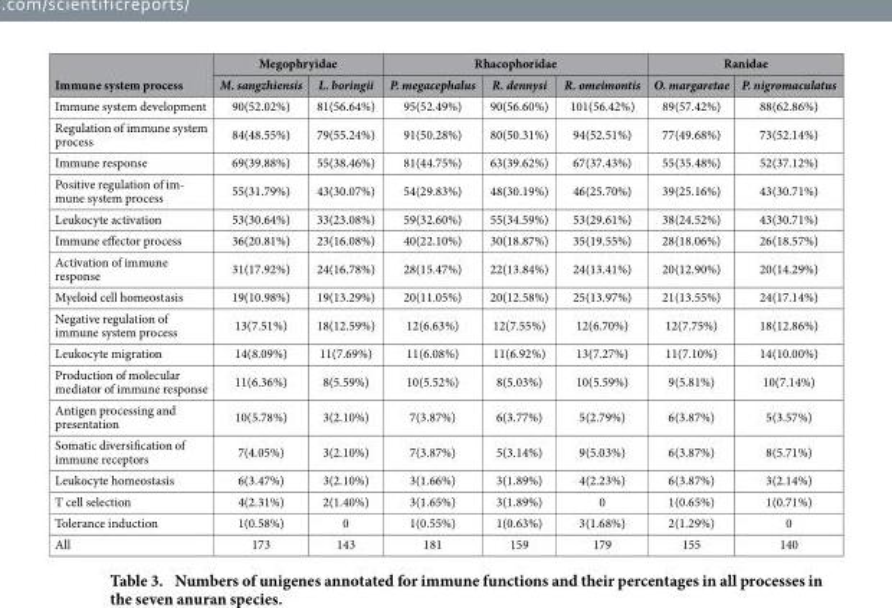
<table><thead><tr><td rowspan="2">Immune system process</td><td colspan="2">Megophryidae</td><td colspan="3">Rhacophoridae</td><td colspan="2">Ranidae</td></tr><tr><td>M. sangzhiensis</td><td>L. boringii</td><td>P. megacephalus</td><td>R. dennysi</td><td>R. omeimontis</td><td>O. margaretae</td><td>P. nigromaculatus</td></tr></thead><tbody><tr><td>Immune system development</td><td>90(52.02%)</td><td>81(56.64%)</td><td>95(52.49%)</td><td>90(56.60%)</td><td>101(56.42%)</td><td>89(57.42%)</td><td>88(62.86%)</td></tr><tr><td>Regulation of immune system process</td><td>84(48.55%)</td><td>79(55.24%)</td><td>91(50.28%)</td><td>80(50.31%)</td><td>94(52.51%)</td><td>77(49.68%)</td><td>73(52.14%)</td></tr><tr><td>Immune response</td><td>69(39.88%)</td><td>55(38.46%)</td><td>81(44.75%)</td><td>63(39.62%)</td><td>67(37.43%)</td><td>55(35.48%)</td><td>52(37.12%)</td></tr><tr><td>Positive regulation of im- mune system process</td><td>55(31.79%)</td><td>43(30.07%)</td><td>54(29.83%)</td><td>48(30.19%)</td><td>46(25.70%)</td><td>39(25.16%)</td><td>43(30.71%)</td></tr><tr><td>Leukocyte activation</td><td>53(30.64%)</td><td>33(23.08%)</td><td>59(32.60%)</td><td>55(34.59%)</td><td>53(29.61%)</td><td>38(24.52%)</td><td>43(30.71%)</td></tr><tr><td>Immune effector process</td><td>36(20.81%)</td><td>23(16.08%)</td><td>40(22.10%)</td><td>30(18.87%)</td><td>35(19.55%)</td><td>28(18.06%)</td><td>26(18.57%)</td></tr><tr><td>Activation of immune response</td><td>31(17.92%)</td><td>24(16.78%)</td><td>28(15.47%)</td><td>22(13.84%)</td><td>24(13.41%)</td><td>20(12.90%)</td><td>20(14.29%)</td></tr><tr><td>Myeloid cell homeostasis</td><td>19(10.98%)</td><td>19(13.29%)</td><td>20(11.05%)</td><td>20(12.58%)</td><td>25(13.97%)</td><td>21(13.55%)</td><td>24(17.14%)</td></tr><tr><td>Negative regulation of immune system process</td><td>13(7.51%)</td><td>18(12.59%)</td><td>12(6.63%)</td><td>12(7.55%)</td><td>12(6.70%)</td><td>12(7.75%)</td><td>18(12.86%)</td></tr><tr><td>Leukocyte migration</td><td>14(8.09%)</td><td>11(7.69%)</td><td>11(6.08%)</td><td>11(6.92%)</td><td>13(7.27%)</td><td>11(7.10%)</td><td>14(10.00%)</td></tr><tr><td>Production of molecular mediator of immune response</td><td>11(6.36%)</td><td>8(5.59%)</td><td>10(5.52%)</td><td>8(5.03%)</td><td>10(5.59%)</td><td>9(5.81%)</td><td>10(7.14%)</td></tr><tr><td>Antigen processing and presentation</td><td>10(5.78%)</td><td>3(2.10%)</td><td>7(3.87%)</td><td>6(3.77%)</td><td>5(2.79%)</td><td>6(3.87%)</td><td>5(3.57%)</td></tr><tr><td>Somatic diversification of immune receptors</td><td>7(4.05%)</td><td>3(2.10%)</td><td>7(3.87%)</td><td>5(3.14%)</td><td>9(5.03%)</td><td>6(3.87%)</td><td>8(5.71%)</td></tr><tr><td>Leukocyte homeostasis</td><td>6(3.47%)</td><td>3(2.10%)</td><td>3(1.66%)</td><td>3(1.89%)</td><td>4(2.23%)</td><td>6(3.87%)</td><td>3(2.14%)</td></tr><tr><td>T cell selection</td><td>4(2.31%)</td><td>2(1.40%)</td><td>3(1.65%)</td><td>3(1.89%)</td><td>0</td><td>1(0.65%)</td><td>1(0.71%)</td></tr><tr><td>Tolerance induction</td><td>1(0.58%)</td><td>0</td><td>1(0.55%)</td><td>1(0.63%)</td><td>3(1.68%)</td><td>2(1.29%)</td><td>0</td></tr><tr><td>All</td><td>173</td><td>143</td><td>181</td><td>159</td><td>179</td><td>155</td><td>140</td></tr></tbody></table>